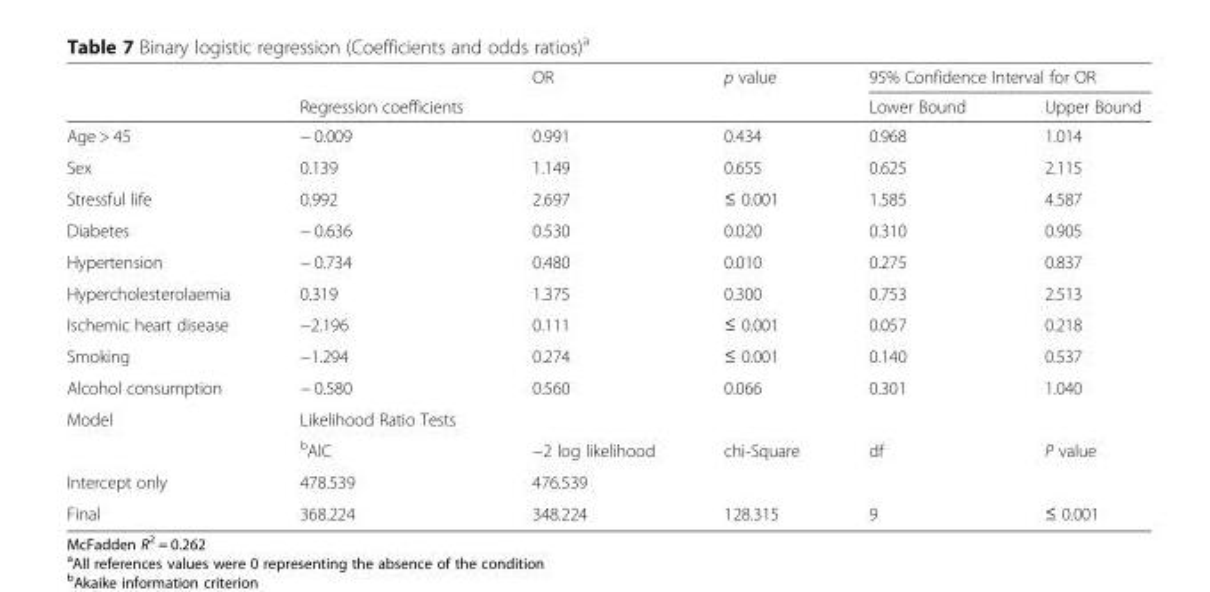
<table><thead><tr><td rowspan="2"></td><td rowspan="2">Regression coefficients</td><td rowspan="2">OR</td><td rowspan="2">p value</td><td colspan="2">95% Confidence Interval for OR</td></tr><tr><td>Lower Bound</td><td>Upper Bound</td></tr></thead><tbody><tr><td>Age &gt; 45</td><td>− 0.009</td><td>0.991</td><td>0.434</td><td>0.968</td><td>1.014</td></tr><tr><td>Sex</td><td>0.139</td><td>1.149</td><td>0.655</td><td>0.625</td><td>2.115</td></tr><tr><td>Stressful life</td><td>0.992</td><td>2.697</td><td>≤ 0.001</td><td>1.585</td><td>4.587</td></tr><tr><td>Diabetes</td><td>− 0.636</td><td>0.530</td><td>0.020</td><td>0.310</td><td>0.905</td></tr><tr><td>Hypertension</td><td>− 0.734</td><td>0.480</td><td>0.010</td><td>0.275</td><td>0.837</td></tr><tr><td>Hypercholesterolaemia</td><td>0.319</td><td>1.375</td><td>0.300</td><td>0.753</td><td>2.513</td></tr><tr><td>Ischemic heart disease</td><td>−2.196</td><td>0.111</td><td>≤ 0.001</td><td>0.057</td><td>0.218</td></tr><tr><td>Smoking</td><td>−1.294</td><td>0.274</td><td>≤ 0.001</td><td>0.140</td><td>0.537</td></tr><tr><td>Alcohol consumption</td><td>− 0.580</td><td>0.560</td><td>0.066</td><td>0.301</td><td>1.040</td></tr><tr><td rowspan="2">Model</td><td colspan="5">Likelihood Ratio Tests</td></tr><tr><td><sup>b</sup>AIC</td><td>−2 log likelihood</td><td>chi-Square</td><td>df</td><td>P value</td></tr><tr><td>Intercept only</td><td>478.539</td><td>476.539</td><td></td><td></td><td></td></tr><tr><td>Final</td><td>368.224</td><td>348.224</td><td>128.315</td><td>9</td><td>≤ 0.001</td></tr></tbody></table>